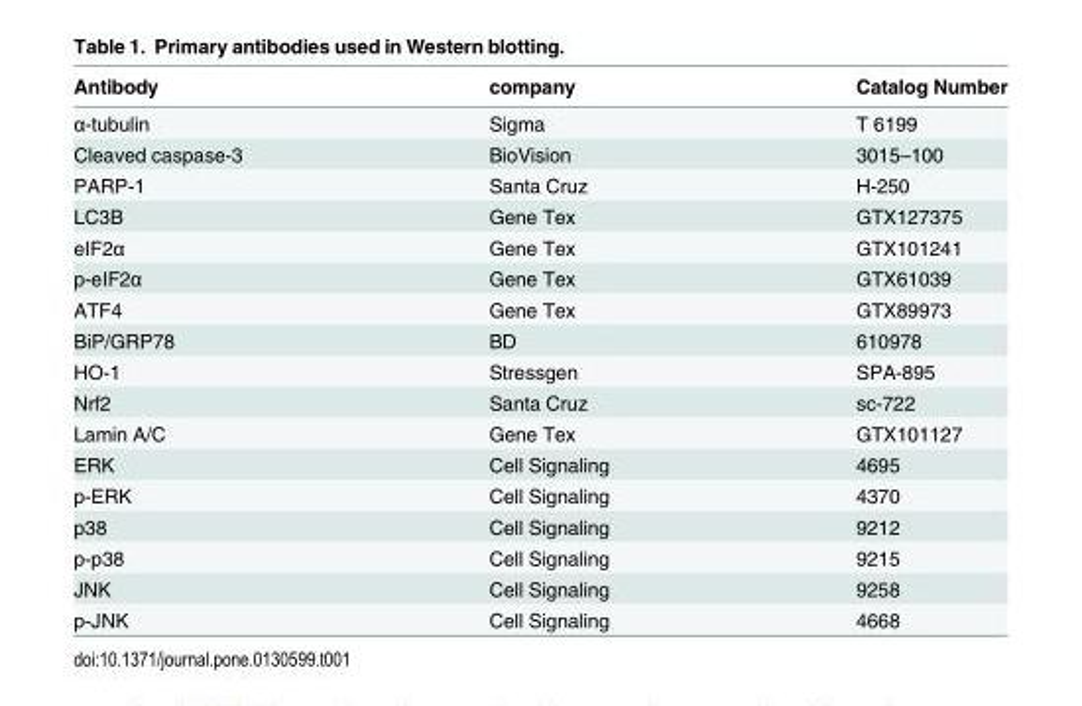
<table><thead><tr><td>Antibody</td><td>company</td><td>Catalog Number</td></tr></thead><tbody><tr><td>α-tubulin</td><td>Sigma</td><td>T 6199</td></tr><tr><td>Cleaved caspase-3</td><td>BioVision</td><td>3015–100</td></tr><tr><td>PARP-1</td><td>Santa Cruz</td><td>H-250</td></tr><tr><td>LC3B</td><td>Gene Tex</td><td>GTX127375</td></tr><tr><td>eIF2α</td><td>Gene Tex</td><td>GTX101241</td></tr><tr><td>p-eIF2α</td><td>Gene Tex</td><td>GTX61039</td></tr><tr><td>ATF4</td><td>Gene Tex</td><td>GTX89973</td></tr><tr><td>BiP/GRP78</td><td>BD</td><td>610978</td></tr><tr><td>HO-1</td><td>Stressgen</td><td>SPA-895</td></tr><tr><td>Nrf2</td><td>Santa Cruz</td><td>sc-722</td></tr><tr><td>Lamin A/C</td><td>Gene Tex</td><td>GTX101127</td></tr><tr><td>ERK</td><td>Cell Signaling</td><td>4695</td></tr><tr><td>p-ERK</td><td>Cell Signaling</td><td>4370</td></tr><tr><td>p38</td><td>Cell Signaling</td><td>9212</td></tr><tr><td>p-p38</td><td>Cell Signaling</td><td>9215</td></tr><tr><td>JNK</td><td>Cell Signaling</td><td>9258</td></tr><tr><td>p-JNK</td><td>Cell Signaling</td><td>4668</td></tr></tbody></table>